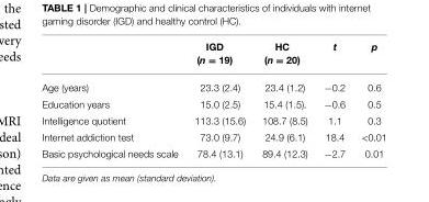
<table><thead><tr><td></td><td>IGD (n = 19)</td><td>HC (n = 20)</td><td>t</td><td>p</td></tr></thead><tbody><tr><td>Age (years)</td><td>23.3 (2.4)</td><td>23.4 (1.2)</td><td>−0.2</td><td>0.6</td></tr><tr><td>Education years</td><td>15.0 (2.5)</td><td>15.4 (1.5).</td><td>−0.6</td><td>0.5</td></tr><tr><td>Intelligence quotient</td><td>113.3 (15.6)</td><td>108.7 (8.5)</td><td>1.1</td><td>0.3</td></tr><tr><td>Internet addiction test</td><td>73.0 (9.7)</td><td>24.9 (6.1)</td><td>18.4</td><td>&lt;0.01</td></tr><tr><td>Basic psychological needs scale</td><td>78.4 (13.1)</td><td>89.4 (12.3)</td><td>−2.7</td><td>0.01</td></tr></tbody></table>